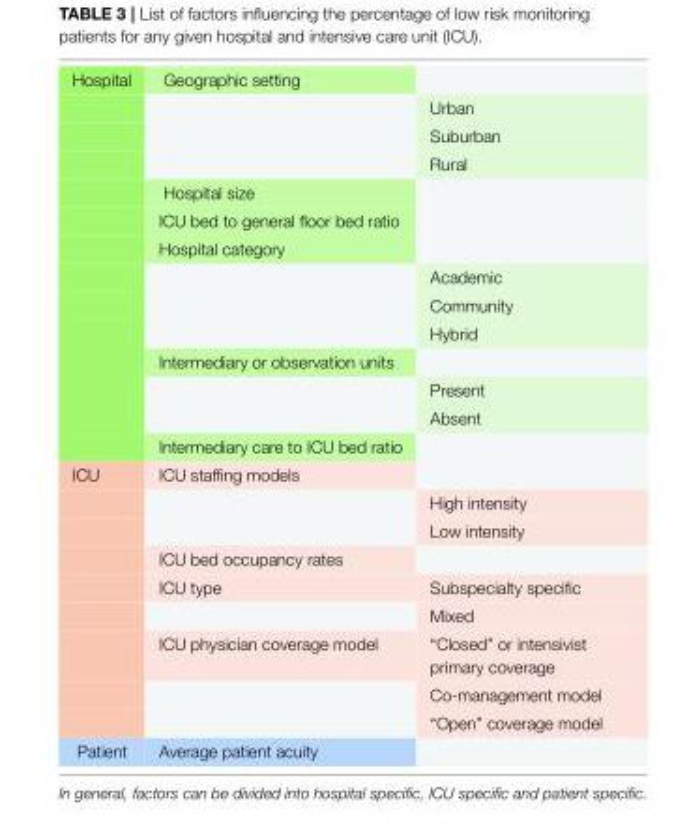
<table><tbody><tr><td rowspan="14">Hospital</td><td>Geographic setting</td><td></td></tr><tr><td></td><td>Urban</td></tr><tr><td></td><td>Suburban</td></tr><tr><td></td><td>Rural</td></tr><tr><td>Hospital size</td><td></td></tr><tr><td>ICU bed to general floor bed ratio</td><td></td></tr><tr><td>Hospital category</td><td></td></tr><tr><td></td><td>Academic</td></tr><tr><td></td><td>Community</td></tr><tr><td></td><td>Hybrid</td></tr><tr><td>Intermediary or observation units</td><td></td></tr><tr><td></td><td>Present</td></tr><tr><td></td><td>Absent</td></tr><tr><td>Intermediary care to ICU bed ratio</td><td></td></tr><tr><td rowspan="9">ICU</td><td>ICU staffing models</td><td></td></tr><tr><td></td><td>High intensity</td></tr><tr><td></td><td>Low intensity</td></tr><tr><td>ICU bed occupancy rates</td><td></td></tr><tr><td>ICU type</td><td>Subspecialty specific</td></tr><tr><td></td><td>Mixed</td></tr><tr><td>ICU physician coverage model</td><td>“Closed” or intensivist primary coverage</td></tr><tr><td></td><td>Co-management model</td></tr><tr><td></td><td>“Open” coverage model</td></tr><tr><td>Patient</td><td>Average patient acuity</td><td></td></tr></tbody></table>